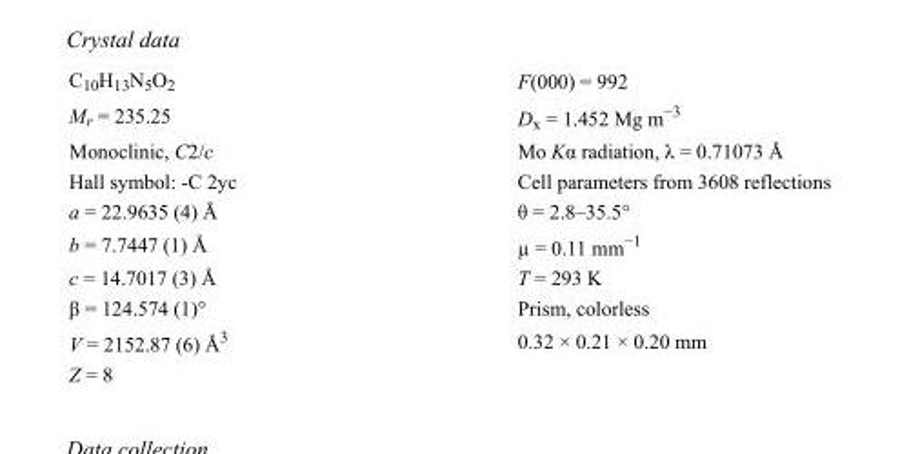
<table><tbody><tr><td>C<sub>10</sub>H<sub>13</sub>N<sub>5</sub>O<sub>2</sub></td><td>F(000) = 992</td></tr><tr><td>M<sub>r</sub> = 235.25</td><td>D<sub>x</sub> = 1.452 Mg m<sup>−3</sup></td></tr><tr><td>Monoclinic, C2/c</td><td>Mo Kα radiation, λ = 0.71073 Å</td></tr><tr><td>Hall symbol: -C 2yc</td><td>Cell parameters from 3608 reflections</td></tr><tr><td>a = 22.9635 (4) Å</td><td>θ = 2.8–35.5°</td></tr><tr><td>b = 7.7447 (1) Å</td><td>µ = 0.11 mm<sup>−1</sup></td></tr><tr><td>c = 14.7017 (3) Å</td><td>T = 293 K</td></tr><tr><td>β = 124.574 (1)°</td><td>Prism, colorless</td></tr><tr><td>V = 2152.87 (6) Å<sup>3</sup></td><td>0.32 × 0.21 × 0.20 mm</td></tr><tr><td>Z = 8</td><td></td></tr></tbody></table>